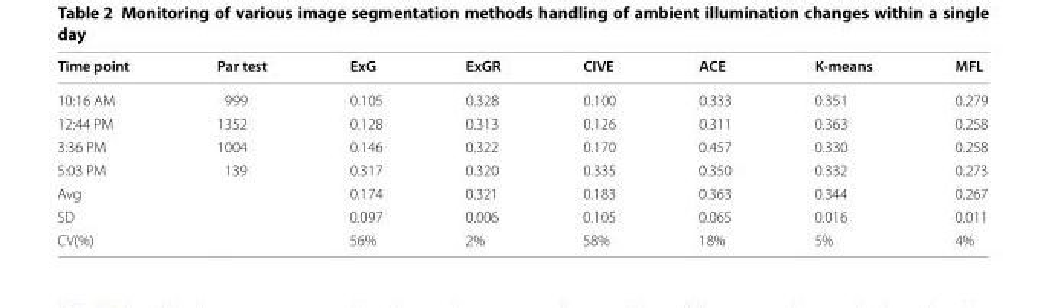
<table><thead><tr><td>Time point</td><td>Par test</td><td>ExG</td><td>ExGR</td><td>CIVE</td><td>ACE</td><td>K‑means</td><td>MFL</td></tr></thead><tbody><tr><td>10:16 AM</td><td>999</td><td>0.105</td><td>0.328</td><td>0.100</td><td>0.333</td><td>0.351</td><td>0.279</td></tr><tr><td>12:44 PM</td><td>1352</td><td>0.128</td><td>0.313</td><td>0.126</td><td>0.311</td><td>0.363</td><td>0.258</td></tr><tr><td>3:36 PM</td><td>1004</td><td>0.146</td><td>0.322</td><td>0.170</td><td>0.457</td><td>0.330</td><td>0.258</td></tr><tr><td>5:03 PM</td><td>139</td><td>0.317</td><td>0.320</td><td>0.335</td><td>0.350</td><td>0.332</td><td>0.273</td></tr><tr><td>Avg</td><td></td><td>0.174</td><td>0.321</td><td>0.183</td><td>0.363</td><td>0.344</td><td>0.267</td></tr><tr><td>SD</td><td></td><td>0.097</td><td>0.006</td><td>0.105</td><td>0.065</td><td>0.016</td><td>0.011</td></tr><tr><td>CV(%)</td><td></td><td>56%</td><td>2%</td><td>58%</td><td>18%</td><td>5%</td><td>4%</td></tr></tbody></table>